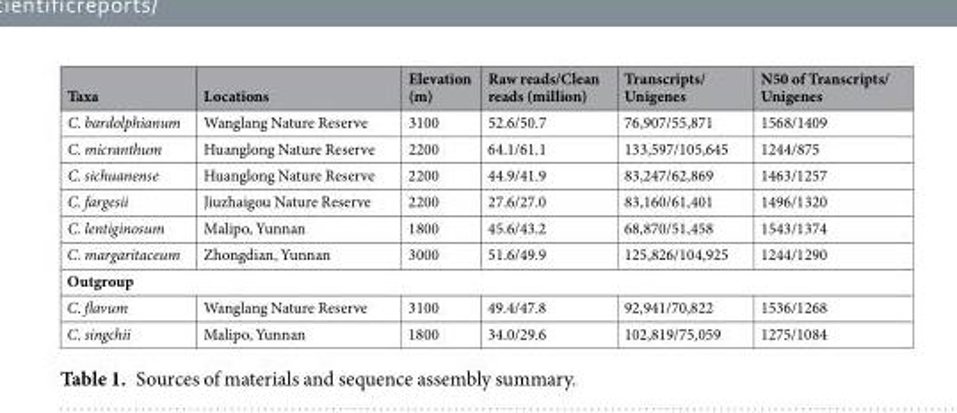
<table><thead><tr><td>Taxa</td><td>Locations</td><td>Elevation (m)</td><td>Raw reads/Clean reads (million)</td><td>Transcripts/ Unigenes</td><td>N50 of Transcripts/ Unigenes</td></tr></thead><tbody><tr><td>C. bardolphianum</td><td>Wanglang Nature Reserve</td><td>3100</td><td>52.6/50.7</td><td>76,907/55,871</td><td>1568/1409</td></tr><tr><td>C. micranthum</td><td>Huanglong Nature Reserve</td><td>2200</td><td>64.1/61.1</td><td>133,597/105,645</td><td>1244/875</td></tr><tr><td>C. sichuanense</td><td>Huanglong Nature Reserve</td><td>2200</td><td>44.9/41.9</td><td>83,247/62,869</td><td>1463/1257</td></tr><tr><td>C. fargesii</td><td>Jiuzhaigou Nature Reserve</td><td>2200</td><td>27.6/27.0</td><td>83,160/61,401</td><td>1496/1320</td></tr><tr><td>C. lentiginosum</td><td>Malipo, Yunnan</td><td>1800</td><td>45.6/43.2</td><td>68,870/51,458</td><td>1543/1374</td></tr><tr><td>C. margaritaceum</td><td>Zhongdian, Yunnan</td><td>3000</td><td>51.6/49.9</td><td>125,826/104,925</td><td>1244/1290</td></tr><tr><td colspan="6">Outgroup</td></tr><tr><td>C. flavum</td><td>Wanglang Nature Reserve</td><td>3100</td><td>49.4/47.8</td><td>92,941/70,822</td><td>1536/1268</td></tr><tr><td>C. singchii</td><td>Malipo, Yunnan</td><td>1800</td><td>34.0/29.6</td><td>102,819/75,059</td><td>1275/1084</td></tr></tbody></table>